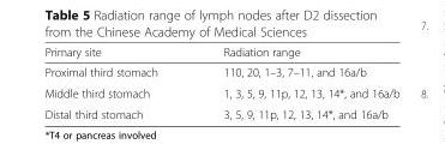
<table><thead><tr><td>Primary site</td><td>Radiation range</td></tr></thead><tbody><tr><td>Proximal third stomach</td><td>110, 20, 1–3, 7–11, and 16a/b</td></tr><tr><td>Middle third stomach</td><td>1, 3, 5, 9, 11p, 12, 13, 14*, and 16a/b</td></tr><tr><td>Distal third stomach</td><td>3, 5, 9, 11p, 12, 13, 14*, and 16a/b</td></tr></tbody></table>